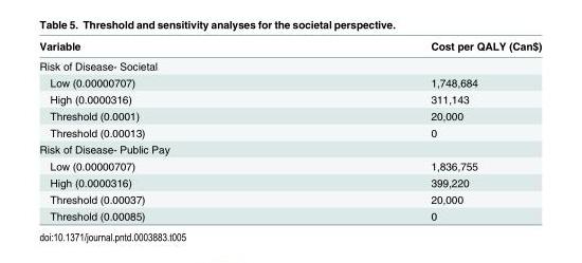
<table><thead><tr><td>Variable</td><td>Cost per QALY (Can$)</td></tr></thead><tbody><tr><td colspan="2">Risk of Disease- Societal</td></tr><tr><td>Low (0.00000707)</td><td>1,748,684</td></tr><tr><td>High (0.0000316)</td><td>311,143</td></tr><tr><td>Threshold (0.0001)</td><td>20,000</td></tr><tr><td>Threshold (0.00013)</td><td>0</td></tr><tr><td colspan="2">Risk of Disease- Public Pay</td></tr><tr><td>Low (0.00000707)</td><td>1,836,755</td></tr><tr><td>High (0.0000316)</td><td>399,220</td></tr><tr><td>Threshold (0.00037)</td><td>20,000</td></tr><tr><td>Threshold (0.00085)</td><td>0</td></tr></tbody></table>